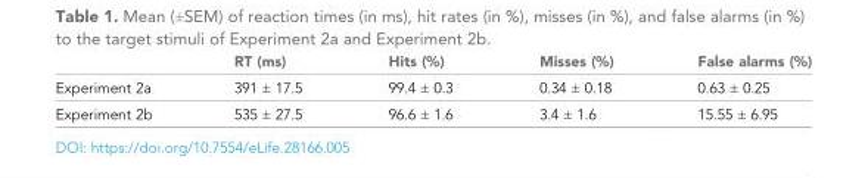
<table><thead><tr><td></td><td>RT (ms)</td><td>Hits (%)</td><td>Misses (%)</td><td>False alarms (%)</td></tr></thead><tbody><tr><td>Experiment 2a</td><td>391 ± 17.5</td><td>99.4 ± 0.3</td><td>0.34 ± 0.18</td><td>0.63 ± 0.25</td></tr><tr><td>Experiment 2b</td><td>535 ± 27.5</td><td>96.6 ± 1.6</td><td>3.4 ± 1.6</td><td>15.55 ± 6.95</td></tr></tbody></table>